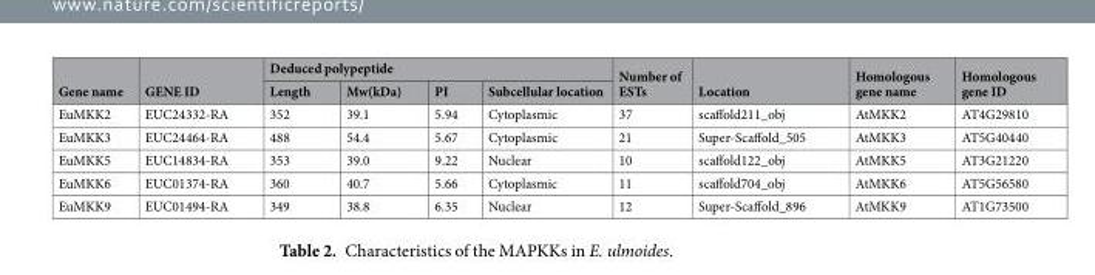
<table><thead><tr><td rowspan="2">Gene name</td><td rowspan="2">GENE ID</td><td colspan="4">Deduced polypeptide</td><td rowspan="2">Number of ESTs</td><td rowspan="2">Location</td><td rowspan="2">Homologous gene name</td><td rowspan="2">Homologous gene ID</td></tr><tr><td>Length</td><td>Mw(kDa)</td><td>PI</td><td>Subcellular location</td></tr></thead><tbody><tr><td>EuMKK2</td><td>EUC24332-RA</td><td>352</td><td>39.1</td><td>5.94</td><td>Cytoplasmic</td><td>37</td><td>scaffold211_obj</td><td>AtMKK2</td><td>AT4G29810</td></tr><tr><td>EuMKK3</td><td>EUC24464-RA</td><td>488</td><td>54.4</td><td>5.67</td><td>Cytoplasmic</td><td>21</td><td>Super-Scaffold_505</td><td>AtMKK3</td><td>AT5G40440</td></tr><tr><td>EuMKK5</td><td>EUC14834-RA</td><td>353</td><td>39.0</td><td>9.22</td><td>Nuclear</td><td>10</td><td>scaffold122_obj</td><td>AtMKK5</td><td>AT3G21220</td></tr><tr><td>EuMKK6</td><td>EUC01374-RA</td><td>360</td><td>40.7</td><td>5.66</td><td>Cytoplasmic</td><td>11</td><td>scaffold704_obj</td><td>AtMKK6</td><td>AT5G56580</td></tr><tr><td>EuMKK9</td><td>EUC01494-RA</td><td>349</td><td>38.8</td><td>6.35</td><td>Nuclear</td><td>12</td><td>Super-Scaffold_896</td><td>AtMKK9</td><td>AT1G73500</td></tr></tbody></table>